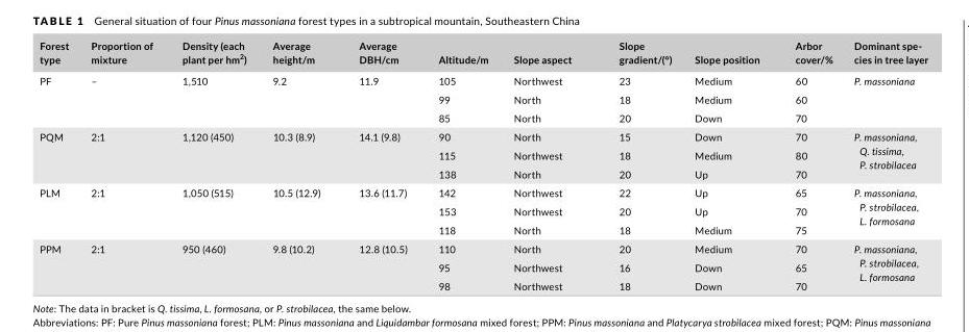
<table><thead><tr><td>Forest type</td><td>Proportion of mixture</td><td>Density (each plant per hm<sup>2</sup>)</td><td>Average height/m</td><td>Average DBH/cm</td><td>Altitude/m</td><td>Slope aspect</td><td>Slope gradient/(°)</td><td>Slope position</td><td>Arbor cover/%</td><td>Dominant spe‐ cies in tree layer</td></tr></thead><tbody><tr><td rowspan="3">PF</td><td rowspan="3">–</td><td rowspan="3">1,510</td><td rowspan="3">9.2</td><td rowspan="3">11.9</td><td>105</td><td>Northwest</td><td>23</td><td>Medium</td><td>60</td><td rowspan="3">P. massoniana</td></tr><tr><td>99</td><td>North</td><td>18</td><td>Medium</td><td>60</td></tr><tr><td>85</td><td>North</td><td>20</td><td>Down</td><td>70</td></tr><tr><td rowspan="3">PQM</td><td rowspan="3">2:1</td><td rowspan="3">1,120 (450)</td><td rowspan="3">10.3 (8.9)</td><td rowspan="3">14.1 (9.8)</td><td>90</td><td>North</td><td>15</td><td>Down</td><td>70</td><td rowspan="3">P. massoniana, Q. tissima, P. strobilacea</td></tr><tr><td>115</td><td>Northwest</td><td>18</td><td>Medium</td><td>80</td></tr><tr><td>138</td><td>North</td><td>20</td><td>Up</td><td>70</td></tr><tr><td rowspan="3">PLM</td><td rowspan="3">2:1</td><td rowspan="3">1,050 (515)</td><td rowspan="3">10.5 (12.9)</td><td rowspan="3">13.6 (11.7)</td><td>142</td><td>Northwest</td><td>22</td><td>Up</td><td>65</td><td rowspan="3">P. massoniana, P. strobilacea, L. formosana</td></tr><tr><td>153</td><td>Northwest</td><td>20</td><td>Up</td><td>70</td></tr><tr><td>118</td><td>North</td><td>18</td><td>Medium</td><td>75</td></tr><tr><td rowspan="3">PPM</td><td rowspan="3">2:1</td><td rowspan="3">950 (460)</td><td rowspan="3">9.8 (10.2)</td><td rowspan="3">12.8 (10.5)</td><td>110</td><td>North</td><td>20</td><td>Medium</td><td>70</td><td rowspan="3">P. massoniana, P. strobilacea, L. formosana</td></tr><tr><td>95</td><td>Northwest</td><td>16</td><td>Down</td><td>65</td></tr><tr><td>98</td><td>Northwest</td><td>18</td><td>Down</td><td>70</td></tr></tbody></table>